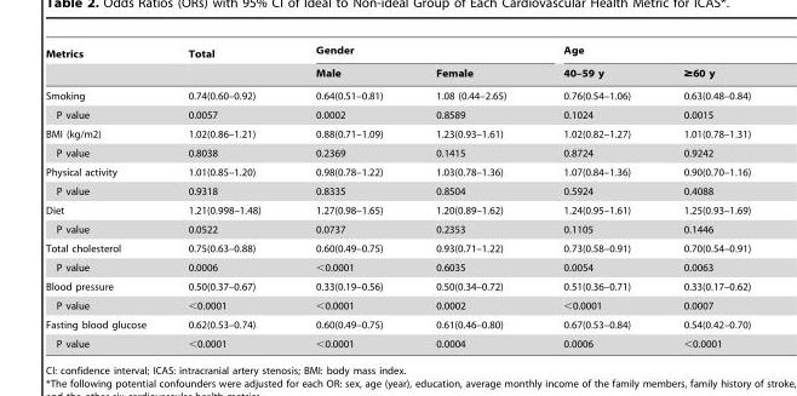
<table><thead><tr><td rowspan="2">Metrics</td><td rowspan="2">Total</td><td colspan="2">Gender</td><td colspan="2">Age</td></tr><tr><td>Male</td><td>Female</td><td>40–59 y</td><td>≥60 y</td></tr></thead><tbody><tr><td>Smoking</td><td>0.74(0.60–0.92)</td><td>0.64(0.51–0.81)</td><td>1.08 (0.44–2.65)</td><td>0.76(0.54–1.06)</td><td>0.63(0.48–0.84)</td></tr><tr><td>P value</td><td>0.0057</td><td>0.0002</td><td>0.8589</td><td>0.1024</td><td>0.0015</td></tr><tr><td>BMI (kg/m2)</td><td>1.02(0.86–1.21)</td><td>0.88(0.71–1.09)</td><td>1.23(0.93–1.61)</td><td>1.02(0.82–1.27)</td><td>1.01(0.78–1.31)</td></tr><tr><td>P value</td><td>0.8038</td><td>0.2369</td><td>0.1415</td><td>0.8724</td><td>0.9242</td></tr><tr><td>Physical activity</td><td>1.01(0.85–1.20)</td><td>0.98(0.78–1.22)</td><td>1.03(0.78–1.36)</td><td>1.07(0.84–1.36)</td><td>0.90(0.70–1.16)</td></tr><tr><td>P value</td><td>0.9318</td><td>0.8335</td><td>0.8504</td><td>0.5924</td><td>0.4088</td></tr><tr><td>Diet</td><td>1.21(0.998–1.48)</td><td>1.27(0.98–1.65)</td><td>1.20(0.89–1.62)</td><td>1.24(0.95–1.61)</td><td>1.25(0.93–1.69)</td></tr><tr><td>P value</td><td>0.0522</td><td>0.0737</td><td>0.2353</td><td>0.1105</td><td>0.1446</td></tr><tr><td>Total cholesterol</td><td>0.75(0.63–0.88)</td><td>0.60(0.49–0.75)</td><td>0.93(0.71–1.22)</td><td>0.73(0.58–0.91)</td><td>0.70(0.54–0.91)</td></tr><tr><td>P value</td><td>0.0006</td><td>&lt;0.0001</td><td>0.6035</td><td>0.0054</td><td>0.0063</td></tr><tr><td>Blood pressure</td><td>0.50(0.37–0.67)</td><td>0.33(0.19–0.56)</td><td>0.50(0.34–0.72)</td><td>0.51(0.36–0.71)</td><td>0.33(0.17–0.62)</td></tr><tr><td>P value</td><td>&lt;0.0001</td><td>&lt;0.0001</td><td>0.0002</td><td>&lt;0.0001</td><td>0.0007</td></tr><tr><td>Fasting blood glucose</td><td>0.62(0.53–0.74)</td><td>0.60(0.49–0.75)</td><td>0.61(0.46–0.80)</td><td>0.67(0.53–0.84)</td><td>0.54(0.42–0.70)</td></tr><tr><td>P value</td><td>&lt;0.0001</td><td>&lt;0.0001</td><td>0.0004</td><td>0.0006</td><td>&lt;0.0001</td></tr></tbody></table>